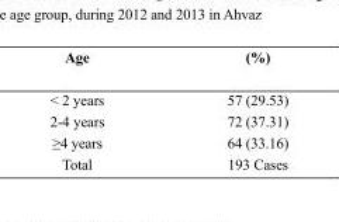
<table><thead><tr><td>Age</td><td>(%)</td></tr></thead><tbody><tr><td>&lt; 2 years</td><td>57 (29.53)</td></tr><tr><td>2-4 years</td><td>72 (37.31)</td></tr><tr><td>≥4 years</td><td>64 (33.16)</td></tr><tr><td>Total</td><td>193 Cases</td></tr></tbody></table>